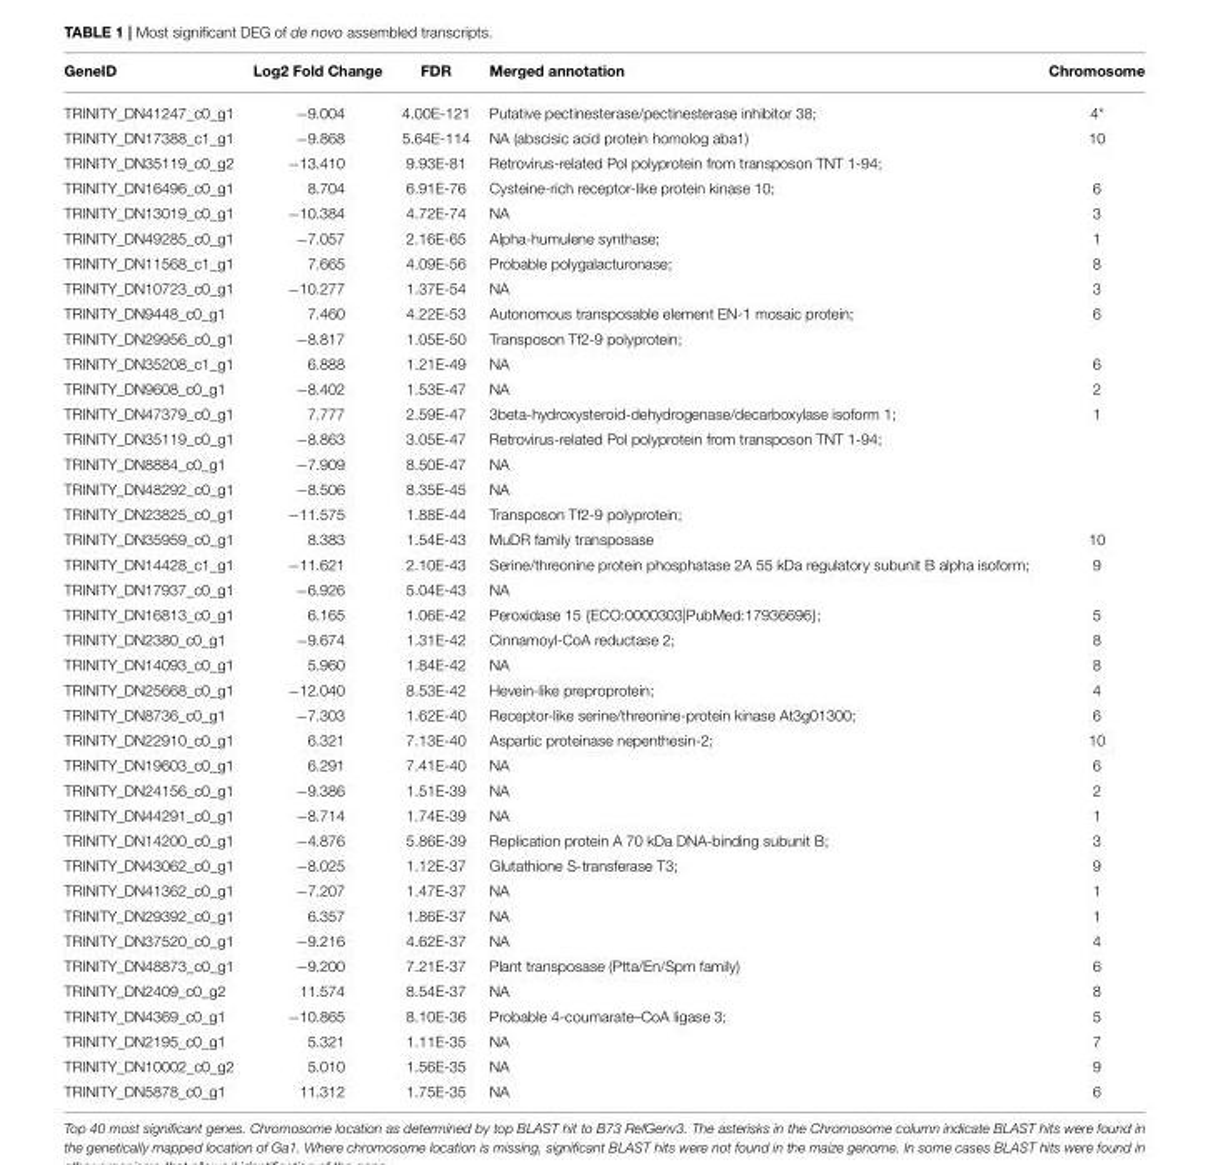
<table><thead><tr><td>GeneID</td><td>Log2 Fold Change</td><td>FDR</td><td>Merged annotation</td><td>Chromosome</td></tr></thead><tbody><tr><td>TRINITY_DN41247_c0_g1</td><td>−9.004</td><td>4.00E-121</td><td>Putative pectinesterase/pectinesterase inhibitor 38;</td><td>4*</td></tr><tr><td>TRINITY_DN17388_c1_g1</td><td>−9.868</td><td>5.64E-114</td><td>NA (abscisic acid protein homolog aba1)</td><td>10</td></tr><tr><td>TRINITY_DN35119_c0_g2</td><td>−13.410</td><td>9.93E-81</td><td>Retrovirus-related Pol polyprotein from transposon TNT 1-94;</td><td></td></tr><tr><td>TRINITY_DN16496_c0_g1</td><td>8.704</td><td>6.91E-76</td><td>Cysteine-rich receptor-like protein kinase 10;</td><td>6</td></tr><tr><td>TRINITY_DN13019_c0_g1</td><td>−10.384</td><td>4.72E-74</td><td>NA</td><td>3</td></tr><tr><td>TRINITY_DN49285_c0_g1</td><td>−7.057</td><td>2.16E-65</td><td>Alpha-humulene synthase;</td><td>1</td></tr><tr><td>TRINITY_DN11568_c1_g1</td><td>7.665</td><td>4.09E-56</td><td>Probable polygalacturonase;</td><td>8</td></tr><tr><td>TRINITY_DN10723_c0_g1</td><td>−10.277</td><td>1.37E-54</td><td>NA</td><td>3</td></tr><tr><td>TRINITY_DN9448_c0_g1</td><td>7.460</td><td>4.22E-53</td><td>Autonomous transposable element EN-1 mosaic protein;</td><td>6</td></tr><tr><td>TRINITY_DN29956_c0_g1</td><td>−8.817</td><td>1.05E-50</td><td>Transposon Tf2-9 polyprotein;</td><td></td></tr><tr><td>TRINITY_DN35208_c1_g1</td><td>6.888</td><td>1.21E-49</td><td>NA</td><td>6</td></tr><tr><td>TRINITY_DN9608_c0_g1</td><td>−8.402</td><td>1.53E-47</td><td>NA</td><td>2</td></tr><tr><td>TRINITY_DN47379_c0_g1</td><td>7.777</td><td>2.59E-47</td><td>3beta-hydroxysteroid-dehydrogenase/decarboxylase isoform 1;</td><td>1</td></tr><tr><td>TRINITY_DN35119_c0_g1</td><td>−8.863</td><td>3.05E-47</td><td>Retrovirus-related Pol polyprotein from transposon TNT 1-94;</td><td></td></tr><tr><td>TRINITY_DN8884_c0_g1</td><td>−7.909</td><td>8.50E-47</td><td>NA</td><td></td></tr><tr><td>TRINITY_DN48292_c0_g1</td><td>−8.506</td><td>8.35E-45</td><td>NA</td><td></td></tr><tr><td>TRINITY_DN23825_c0_g1</td><td>−11.575</td><td>1.88E-44</td><td>Transposon Tf2-9 polyprotein;</td><td></td></tr><tr><td>TRINITY_DN35959_c0_g1</td><td>8.383</td><td>1.54E-43</td><td>MuDR family transposase</td><td>10</td></tr><tr><td>TRINITY_DN14428_c1_g1</td><td>−11.621</td><td>2.10E-43</td><td>Serine/threonine protein phosphatase 2A 55 kDa regulatory subunit B alpha isoform;</td><td>9</td></tr><tr><td>TRINITY_DN17937_c0_g1</td><td>−6.926</td><td>5.04E-43</td><td>NA</td><td></td></tr><tr><td>TRINITY_DN16813_c0_g1</td><td>6.165</td><td>1.06E-42</td><td>Peroxidase 15 {ECO:0000303|PubMed:17936696};</td><td>5</td></tr><tr><td>TRINITY_DN2380_c0_g1</td><td>−9.674</td><td>1.31E-42</td><td>Cinnamoyl-CoA reductase 2;</td><td>8</td></tr><tr><td>TRINITY_DN14093_c0_g1</td><td>5.960</td><td>1.84E-42</td><td>NA</td><td>8</td></tr><tr><td>TRINITY_DN25668_c0_g1</td><td>−12.040</td><td>8.53E-42</td><td>Hevein-like preproprotein;</td><td>4</td></tr><tr><td>TRINITY_DN8736_c0_g1</td><td>−7.303</td><td>1.62E-40</td><td>Receptor-like serine/threonine-protein kinase At3g01300;</td><td>6</td></tr><tr><td>TRINITY_DN22910_c0_g1</td><td>6.321</td><td>7.13E-40</td><td>Aspartic proteinase nepenthesin-2;</td><td>10</td></tr><tr><td>TRINITY_DN19603_c0_g1</td><td>6.291</td><td>7.41E-40</td><td>NA</td><td>6</td></tr><tr><td>TRINITY_DN24156_c0_g1</td><td>−9.386</td><td>1.51E-39</td><td>NA</td><td>2</td></tr><tr><td>TRINITY_DN44291_c0_g1</td><td>−8.714</td><td>1.74E-39</td><td>NA</td><td>1</td></tr><tr><td>TRINITY_DN14200_c0_g1</td><td>−4.876</td><td>5.86E-39</td><td>Replication protein A 70 kDa DNA-binding subunit B;</td><td>3</td></tr><tr><td>TRINITY_DN43062_c0_g1</td><td>−8.025</td><td>1.12E-37</td><td>Glutathione S-transferase T3;</td><td>9</td></tr><tr><td>TRINITY_DN41362_c0_g1</td><td>−7.207</td><td>1.47E-37</td><td>NA</td><td>1</td></tr><tr><td>TRINITY_DN29392_c0_g1</td><td>6.357</td><td>1.86E-37</td><td>NA</td><td>1</td></tr><tr><td>TRINITY_DN37520_c0_g1</td><td>−9.216</td><td>4.62E-37</td><td>NA</td><td>4</td></tr><tr><td>TRINITY_DN48873_c0_g1</td><td>−9.200</td><td>7.21E-37</td><td>Plant transposase (Ptta/En/Spm family)</td><td>6</td></tr><tr><td>TRINITY_DN2409_c0_g2</td><td>11.574</td><td>8.54E-37</td><td>NA</td><td>8</td></tr><tr><td>TRINITY_DN4369_c0_g1</td><td>−10.865</td><td>8.10E-36</td><td>Probable 4-coumarate–CoA ligase 3;</td><td>5</td></tr><tr><td>TRINITY_DN2195_c0_g1</td><td>5.321</td><td>1.11E-35</td><td>NA</td><td>7</td></tr><tr><td>TRINITY_DN10002_c0_g2</td><td>5.010</td><td>1.56E-35</td><td>NA</td><td>9</td></tr><tr><td>TRINITY_DN5878_c0_g1</td><td>11.312</td><td>1.75E-35</td><td>NA</td><td>6</td></tr></tbody></table>